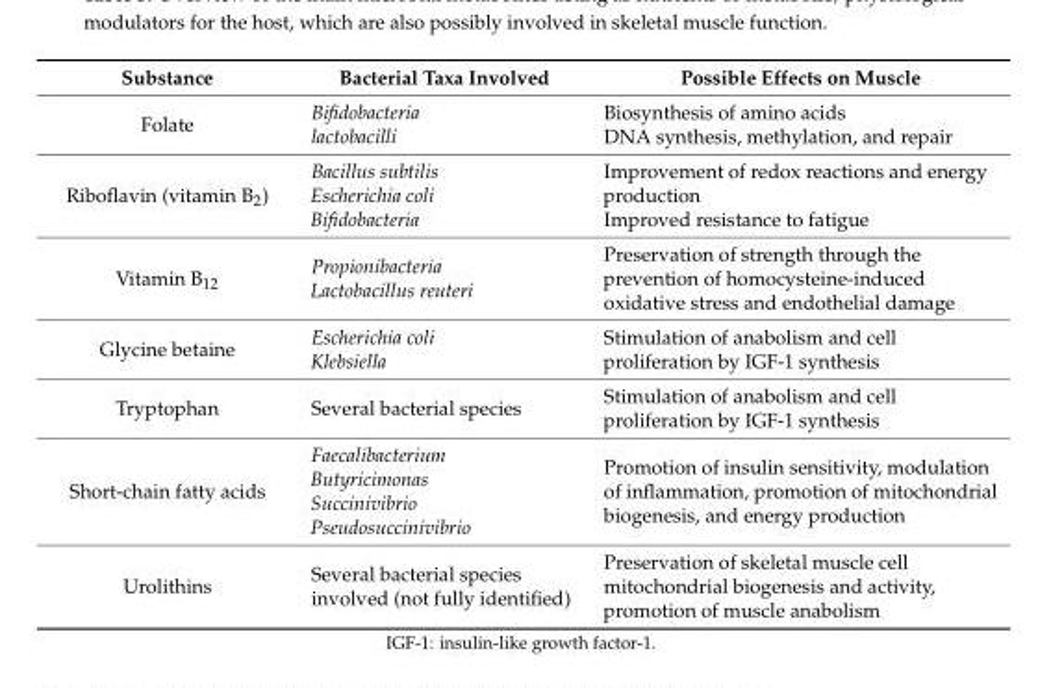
<table><thead><tr><td>Substance</td><td>Bacterial Taxa Involved</td><td>Possible Effects on Muscle</td></tr></thead><tbody><tr><td>Folate</td><td>Bifidobacteria lactobacilli</td><td>Biosynthesis of amino acids DNA synthesis, methylation, and repair</td></tr><tr><td>Riboflavin (vitamin B<sub>2</sub>)</td><td>Bacillus subtilis Escherichia coli Bifidobacteria</td><td>Improvement of redox reactions and energy production Improved resistance to fatigue</td></tr><tr><td>Vitamin B<sub>12</sub></td><td>Propionibacteria Lactobacillus reuteri</td><td>Preservation of strength through the prevention of homocysteine-induced oxidative stress and endothelial damage</td></tr><tr><td>Glycine betaine</td><td>Escherichia coli Klebsiella</td><td>Stimulation of anabolism and cell proliferation by IGF-1 synthesis</td></tr><tr><td>Tryptophan</td><td>Several bacterial species</td><td>Stimulation of anabolism and cell proliferation by IGF-1 synthesis</td></tr><tr><td>Short-chain fatty acids</td><td>Faecalibacterium Butyricimonas Succinivibrio Pseudosuccinivibrio</td><td>Promotion of insulin sensitivity, modulation of inflammation, promotion of mitochondrial biogenesis, and energy production</td></tr><tr><td>Urolithins</td><td>Several bacterial species involved (not fully identified)</td><td>Preservation of skeletal muscle cell mitochondrial biogenesis and activity, promotion of muscle anabolism</td></tr></tbody></table>